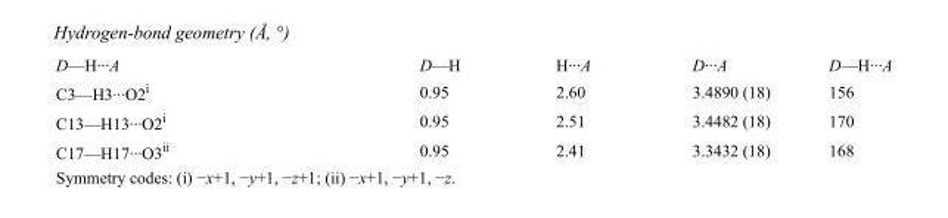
<table><tbody><tr><td>D—H···A</td><td>D—H</td><td>H···A</td><td>D···A</td><td>D—H···A</td></tr><tr><td>C3—H3···O2<sup>i</sup></td><td>0.95</td><td>2.60</td><td>3.4890 (18)</td><td>156</td></tr><tr><td>C13—H13···O2<sup>i</sup></td><td>0.95</td><td>2.51</td><td>3.4482 (18)</td><td>170</td></tr><tr><td>C17—H17···O3<sup>ii</sup></td><td>0.95</td><td>2.41</td><td>3.3432 (18)</td><td>168</td></tr></tbody></table>